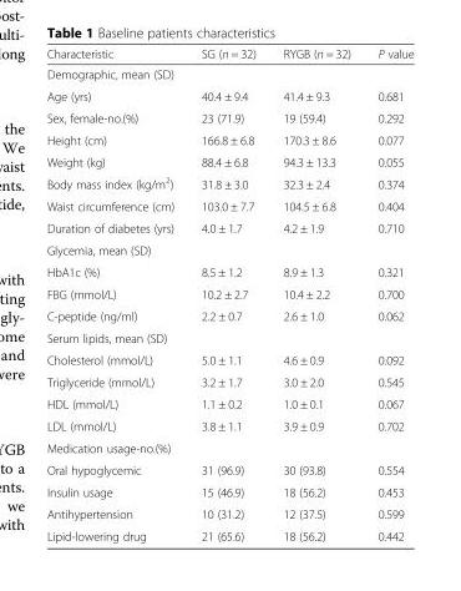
<table><thead><tr><td>Characteristic</td><td>SG (n = 32)</td><td>RYGB (n = 32)</td><td>P value</td></tr></thead><tbody><tr><td colspan="4">Demographic, mean (SD)</td></tr><tr><td>Age (yrs)</td><td>40.4 ± 9.4</td><td>41.4 ± 9.3</td><td>0.681</td></tr><tr><td>Sex, female-no.(%)</td><td>23 (71.9)</td><td>19 (59.4)</td><td>0.292</td></tr><tr><td>Height (cm)</td><td>166.8 ± 6.8</td><td>170.3 ± 8.6</td><td>0.077</td></tr><tr><td>Weight (kg)</td><td>88.4 ± 6.8</td><td>94.3 ± 13.3</td><td>0.055</td></tr><tr><td>Body mass index (kg/m<sup>2</sup>)</td><td>31.8 ± 3.0</td><td>32.3 ± 2.4</td><td>0.374</td></tr><tr><td>Waist circumference (cm)</td><td>103.0 ± 7.7</td><td>104.5 ± 6.8</td><td>0.404</td></tr><tr><td>Duration of diabetes (yrs)</td><td>4.0 ± 1.7</td><td>4.2 ± 1.9</td><td>0.710</td></tr><tr><td colspan="4">Glycemia, mean (SD)</td></tr><tr><td>HbA1c (%)</td><td>8.5 ± 1.2</td><td>8.9 ± 1.3</td><td>0.321</td></tr><tr><td>FBG (mmol/L)</td><td>10.2 ± 2.7</td><td>10.4 ± 2.2</td><td>0.700</td></tr><tr><td>C-peptide (ng/ml)</td><td>2.2 ± 0.7</td><td>2.6 ± 1.0</td><td>0.062</td></tr><tr><td colspan="4">Serum lipids, mean (SD)</td></tr><tr><td>Cholesterol (mmol/L)</td><td>5.0 ± 1.1</td><td>4.6 ± 0.9</td><td>0.092</td></tr><tr><td>Triglyceride (mmol/L)</td><td>3.2 ± 1.7</td><td>3.0 ± 2.0</td><td>0.545</td></tr><tr><td>HDL (mmol/L)</td><td>1.1 ± 0.2</td><td>1.0 ± 0.1</td><td>0.067</td></tr><tr><td>LDL (mmol/L)</td><td>3.8 ± 1.1</td><td>3.9 ± 0.9</td><td>0.702</td></tr><tr><td colspan="4">Medication usage-no.(%)</td></tr><tr><td>Oral hypoglycemic</td><td>31 (96.9)</td><td>30 (93.8)</td><td>0.554</td></tr><tr><td>Insulin usage</td><td>15 (46.9)</td><td>18 (56.2)</td><td>0.453</td></tr><tr><td>Antihypertension</td><td>10 (31.2)</td><td>12 (37.5)</td><td>0.599</td></tr><tr><td>Lipid-lowering drug</td><td>21 (65.6)</td><td>18 (56.2)</td><td>0.442</td></tr></tbody></table>